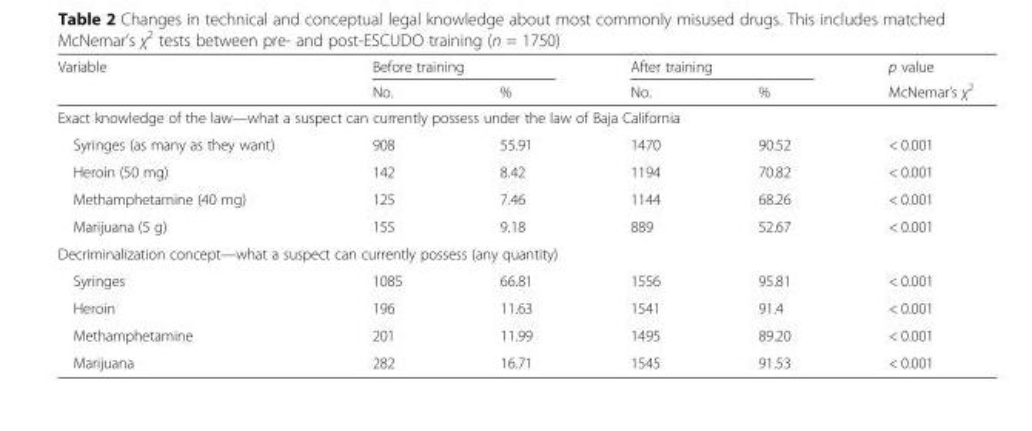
<table><thead><tr><td rowspan="2">Variable</td><td colspan="2">Before training</td><td colspan="2">After training</td><td rowspan="2">p value McNemar’s χ<sup>2</sup></td></tr><tr><td>No.</td><td>%</td><td>No.</td><td>%</td></tr></thead><tbody><tr><td colspan="6">Exact knowledge of the law—what a suspect can currently possess under the law of Baja California</td></tr><tr><td>Syringes (as many as they want)</td><td>908</td><td>55.91</td><td>1470</td><td>90.52</td><td>&lt; 0.001</td></tr><tr><td>Heroin (50 mg)</td><td>142</td><td>8.42</td><td>1194</td><td>70.82</td><td>&lt; 0.001</td></tr><tr><td>Methamphetamine (40 mg)</td><td>125</td><td>7.46</td><td>1144</td><td>68.26</td><td>&lt; 0.001</td></tr><tr><td>Marijuana (5 g)</td><td>155</td><td>9.18</td><td>889</td><td>52.67</td><td>&lt; 0.001</td></tr><tr><td colspan="6">Decriminalization concept—what a suspect can currently possess (any quantity)</td></tr><tr><td>Syringes</td><td>1085</td><td>66.81</td><td>1556</td><td>95.81</td><td>&lt; 0.001</td></tr><tr><td>Heroin</td><td>196</td><td>11.63</td><td>1541</td><td>91.4</td><td>&lt; 0.001</td></tr><tr><td>Methamphetamine</td><td>201</td><td>11.99</td><td>1495</td><td>89.20</td><td>&lt; 0.001</td></tr><tr><td>Marijuana</td><td>282</td><td>16.71</td><td>1545</td><td>91.53</td><td>&lt; 0.001</td></tr></tbody></table>